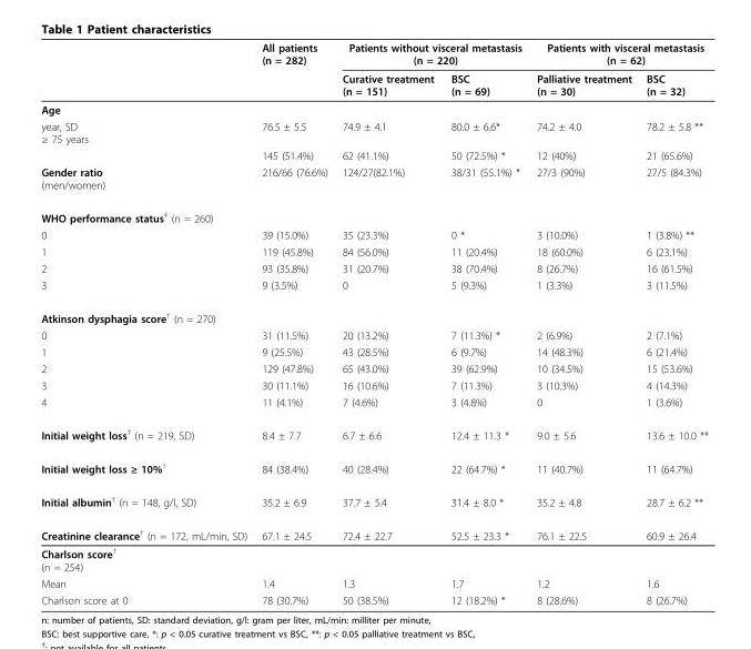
<table><thead><tr><td rowspan="2"></td><td rowspan="2">All patients (n = 282)</td><td colspan="2">Patients without visceral metastasis (n = 220)</td><td colspan="2">Patients with visceral metastasis (n = 62)</td></tr><tr><td>Curative treatment (n = 151)</td><td>BSC (n = 69)</td><td>Palliative treatment (n = 30)</td><td>BSC (n = 32)</td></tr></thead><tbody><tr><td colspan="6">Age</td></tr><tr><td rowspan="2">year, SD ≥ 75 years</td><td>76.5 ± 5.5</td><td>74.9 ± 4.1</td><td>80.0 ± 6.6*</td><td>74.2 ± 4.0</td><td>78.2 ± 5.8 **</td></tr><tr><td>145 (51.4%)</td><td>62 (41.1%)</td><td>50 (72.5%) *</td><td>12 (40%)</td><td>21 (65.6%)</td></tr><tr><td>Gender ratio (men/women)</td><td>216/66 (76.6%)</td><td>124/27(82.1%)</td><td>38/31 (55.1%) *</td><td>27/3 (90%)</td><td>27/5 (84.3%)</td></tr><tr><td colspan="6">WHO performance status<sup>‡</sup> (n = 260)</td></tr><tr><td>0</td><td>39 (15.0%)</td><td>35 (23.3%)</td><td>0 *</td><td>3 (10.0%)</td><td>1 (3.8%) **</td></tr><tr><td>1</td><td>119 (45.8%)</td><td>84 (56.0%)</td><td>11 (20.4%)</td><td>18 (60.0%)</td><td>6 (23.1%)</td></tr><tr><td>2</td><td>93 (35.8%)</td><td>31 (20.7%)</td><td>38 (70.4%)</td><td>8 (26.7%)</td><td>16 (61.5%)</td></tr><tr><td>3</td><td>9 (3.5%)</td><td>0</td><td>5 (9.3%)</td><td>1 (3.3%)</td><td>3 (11.5%)</td></tr><tr><td colspan="6">Atkinson dysphagia score<sup>†</sup> (n = 270)</td></tr><tr><td>0</td><td>31 (11.5%)</td><td>20 (13.2%)</td><td>7 (11.3%) *</td><td>2 (6.9%)</td><td>2 (7.1%)</td></tr><tr><td>1</td><td>9 (25.5%)</td><td>43 (28.5%)</td><td>6 (9.7%)</td><td>14 (48.3%)</td><td>6 (21.4%)</td></tr><tr><td>2</td><td>129 (47.8%)</td><td>65 (43.0%)</td><td>39 (62.9%)</td><td>10 (34.5%)</td><td>15 (53.6%)</td></tr><tr><td>3</td><td>30 (11.1%)</td><td>16 (10.6%)</td><td>7 (11.3%)</td><td>3 (10.3%)</td><td>4 (14.3%)</td></tr><tr><td>4</td><td>11 (4.1%)</td><td>7 (4.6%)</td><td>3 (4.8%)</td><td>0</td><td>1 (3.6%)</td></tr><tr><td>Initial weight loss<sup>†</sup> (n = 219, SD)</td><td>8.4 ± 7.7</td><td>6.7 ± 6.6</td><td>12.4 ± 11.3 *</td><td>9.0 ± 5.6</td><td>13.6 ± 10.0 **</td></tr><tr><td>Initial weight loss ≥ 10%<sup>†</sup></td><td>84 (38.4%)</td><td>40 (28.4%)</td><td>22 (64.7%) *</td><td>11 (40.7%)</td><td>11 (64.7%)</td></tr><tr><td>Initial albumin<sup>†</sup> (n = 148, g/l, SD)</td><td>35.2 ± 6.9</td><td>37.7 ± 5.4</td><td>31.4 ± 8.0 *</td><td>35.2 ± 4.8</td><td>28.7 ± 6.2 **</td></tr><tr><td>Creatinine clearance<sup>†</sup> (n = 172, mL/min, SD)</td><td>67.1 ± 24.5</td><td>72.4 ± 22.7</td><td>52.5 ± 23.3 *</td><td>76.1 ± 22.5</td><td>60.9 ± 26.4</td></tr><tr><td colspan="6">Charlson score<sup>†</sup> (n = 254)</td></tr><tr><td>Mean</td><td>1.4</td><td>1.3</td><td>1.7</td><td>1.2</td><td>1.6</td></tr><tr><td>Charlson score at 0</td><td>78 (30.7%)</td><td>50 (38.5%)</td><td>12 (18.2%) *</td><td>8 (28.6%)</td><td>8 (26.7%)</td></tr></tbody></table>